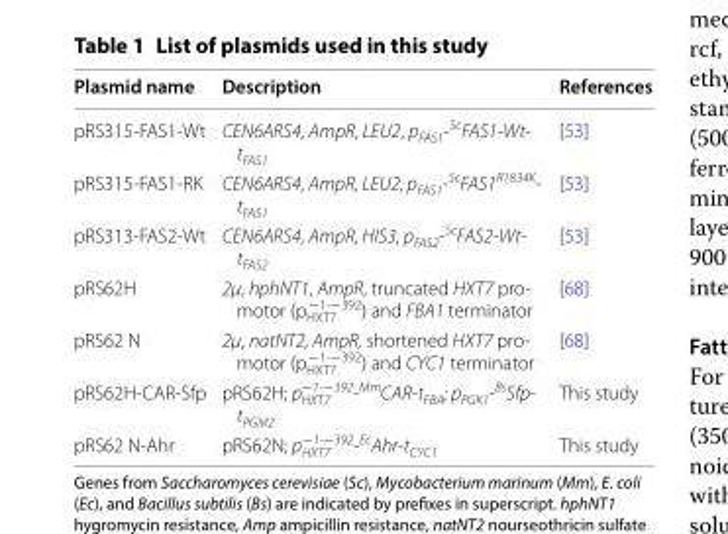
<table><thead><tr><td>Plasmid name</td><td>Description</td><td>References</td></tr></thead><tbody><tr><td>pRS315-FAS1-Wt</td><td>CEN6ARS4, AmpR, LEU2, p<sub>FAS1</sub>-<sup>Sc</sup>FAS1-Wt- t<sub>FAS1</sub></td><td>[53]</td></tr><tr><td>pRS315-FAS1-RK</td><td>CEN6ARS4, AmpR, LEU2, p<sub>FAS1</sub>-<sup>Sc</sup>FAS1<sup>R1834K</sup>- t<sub>FAS1</sub></td><td>[53]</td></tr><tr><td>pRS313-FAS2-Wt</td><td>CEN6ARS4, AmpR, HIS3, p<sub>FAS2</sub>-<sup>Sc</sup>FAS2-Wt- t<sub>FAS2</sub></td><td>[53]</td></tr><tr><td>pRS62H</td><td>2µ, hphNT1, AmpR, truncated HXT7 pro- motor (pHXT7 −1-−392) and FBA1 terminator</td><td>[68]</td></tr><tr><td>pRS62 N</td><td>2µ, natNT2, AmpR, shortened HXT7 pro- motor (pHXT7 −1-−392) and CYC1 terminator</td><td>[68]</td></tr><tr><td>pRS62H-CAR-Sfp</td><td>pRS62H; p<sub>HXT7</sub> <sup>−1-−392</sup>-<sup>Mm</sup>CAR -t<sub>FBA</sub>; p<sub>PGK1</sub>-<sup>Bs</sup>Sfp- t<sub>PGM2</sub></td><td>This study</td></tr><tr><td>pRS62 N-Ahr</td><td>pRS62N; p<sub>HXT7</sub> <sup>−1-−392</sup>-<sup>Ec</sup>Ahr-t<sub>CYC1</sub></td><td>This study</td></tr></tbody></table>